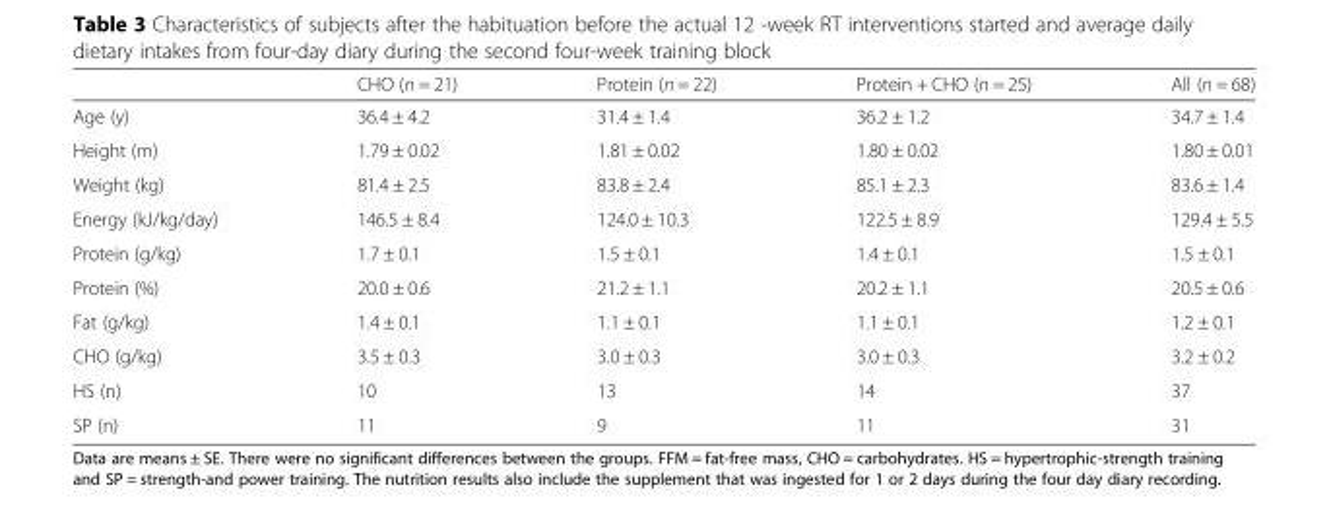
<table><thead><tr><td></td><td>CHO (n = 21)</td><td>Protein (n = 22)</td><td>Protein + CHO (n = 25)</td><td>All (n = 68)</td></tr></thead><tbody><tr><td>Age (y)</td><td>36.4 ± 4.2</td><td>31.4 ± 1.4</td><td>36.2 ± 1.2</td><td>34.7 ± 1.4</td></tr><tr><td>Height (m)</td><td>1.79 ± 0.02</td><td>1.81 ± 0.02</td><td>1.80 ± 0.02</td><td>1.80 ± 0.01</td></tr><tr><td>Weight (kg)</td><td>81.4 ± 2.5</td><td>83.8 ± 2.4</td><td>85.1 ± 2.3</td><td>83.6 ± 1.4</td></tr><tr><td>Energy (kJ/kg/day)</td><td>146.5 ± 8.4</td><td>124.0 ± 10.3</td><td>122.5 ± 8.9</td><td>129.4 ± 5.5</td></tr><tr><td>Protein (g/kg)</td><td>1.7 ± 0.1</td><td>1.5 ± 0.1</td><td>1.4 ± 0.1</td><td>1.5 ± 0.1</td></tr><tr><td>Protein (%)</td><td>20.0 ± 0.6</td><td>21.2 ± 1.1</td><td>20.2 ± 1.1</td><td>20.5 ± 0.6</td></tr><tr><td>Fat (g/kg)</td><td>1.4 ± 0.1</td><td>1.1 ± 0.1</td><td>1.1 ± 0.1</td><td>1.2 ± 0.1</td></tr><tr><td>CHO (g/kg)</td><td>3.5 ± 0.3</td><td>3.0 ± 0.3</td><td>3.0 ± 0.3</td><td>3.2 ± 0.2</td></tr><tr><td>HS (n)</td><td>10</td><td>13</td><td>14</td><td>37</td></tr><tr><td>SP (n)</td><td>11</td><td>9</td><td>11</td><td>31</td></tr></tbody></table>